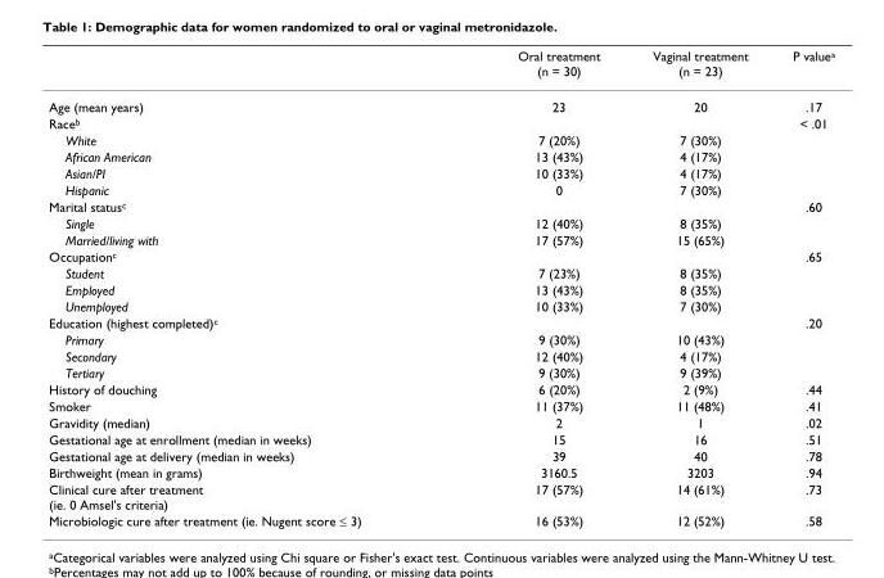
<table><thead><tr><td></td><td>Oral treatment (n = 30)</td><td>Vaginal treatment (n = 23)</td><td>P value<sup>a</sup></td></tr></thead><tbody><tr><td>Age (mean years)</td><td>23</td><td>20</td><td>.17</td></tr><tr><td>Race<sup>b</sup></td><td></td><td></td><td>&lt; .01</td></tr><tr><td>White</td><td>7 (20%)</td><td>7 (30%)</td><td></td></tr><tr><td>African American</td><td>13 (43%)</td><td>4 (17%)</td><td></td></tr><tr><td>Asian/PI</td><td>10 (33%)</td><td>4 (17%)</td><td></td></tr><tr><td>Hispanic</td><td>0</td><td>7 (30%)</td><td></td></tr><tr><td>Marital status<sup>c</sup></td><td></td><td></td><td>.60</td></tr><tr><td>Single</td><td>12 (40%)</td><td>8 (35%)</td><td></td></tr><tr><td>Married/living with</td><td>17 (57%)</td><td>15 (65%)</td><td></td></tr><tr><td>Occupation<sup>c</sup></td><td></td><td></td><td>.65</td></tr><tr><td>Student</td><td>7 (23%)</td><td>8 (35%)</td><td></td></tr><tr><td>Employed</td><td>13 (43%)</td><td>8 (35%)</td><td></td></tr><tr><td>Unemployed</td><td>10 (33%)</td><td>7 (30%)</td><td></td></tr><tr><td>Education (highest completed)<sup>c</sup></td><td></td><td></td><td>.20</td></tr><tr><td>Primary</td><td>9 (30%)</td><td>10 (43%)</td><td></td></tr><tr><td>Secondary</td><td>12 (40%)</td><td>4 (17%)</td><td></td></tr><tr><td>Tertiary</td><td>9 (30%)</td><td>9 (39%)</td><td></td></tr><tr><td>History of douching</td><td>6 (20%)</td><td>2 (9%)</td><td>.44</td></tr><tr><td>Smoker</td><td>11 (37%)</td><td>11 (48%)</td><td>.41</td></tr><tr><td>Gravidity (median)</td><td>2</td><td>1</td><td>.02</td></tr><tr><td>Gestational age at enrollment (median in weeks)</td><td>15</td><td>16</td><td>.51</td></tr><tr><td>Gestational age at delivery (median in weeks)</td><td>39</td><td>40</td><td>.78</td></tr><tr><td>Birthweight (mean in grams)</td><td>3160.5</td><td>3203</td><td>.94</td></tr><tr><td>Clinical cure after treatment (ie. 0 Amsel&#x27;s criteria)</td><td>17 (57%)</td><td>14 (61%)</td><td>.73</td></tr><tr><td>Microbiologic cure after treatment (ie. Nugent score ≤ 3)</td><td>16 (53%)</td><td>12 (52%)</td><td>.58</td></tr></tbody></table>